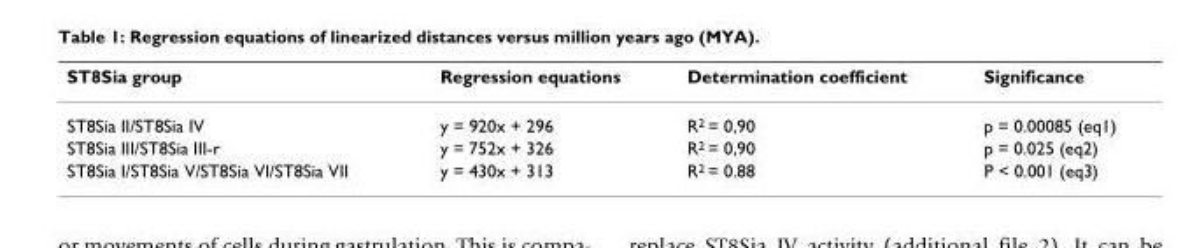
<table><thead><tr><td>ST8Sia group</td><td>Regression equations</td><td>Determination coefficient</td><td>Significance</td></tr></thead><tbody><tr><td>ST8Sia II/ST8Sia IV</td><td>y = 920x + 296</td><td>R<sup>2</sup> = 0,90</td><td>p = 0.00085 (eq1)</td></tr><tr><td>ST8Sia III/ST8Sia III-r</td><td>y = 752x + 326</td><td>R<sup>2</sup> = 0,90</td><td>p = 0.025 (eq2)</td></tr><tr><td>ST8Sia I/ST8Sia V/ST8Sia VI/ST8Sia VII</td><td>y = 430x + 313</td><td>R<sup>2</sup> = 0.88</td><td>P &lt; 0.001 (eq3)</td></tr></tbody></table>